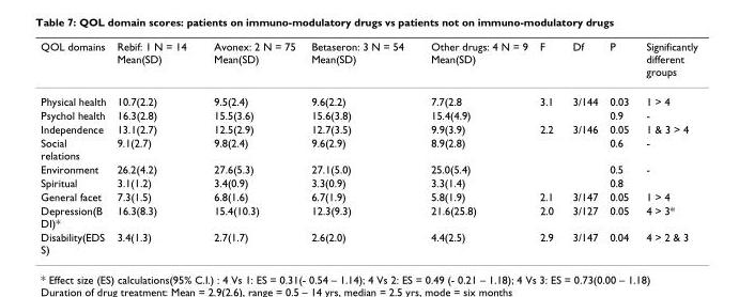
<table><thead><tr><td>QOL domains</td><td>Rebif: 1 N = 14 Mean(SD)</td><td>Avonex: 2 N = 75 Mean(SD)</td><td>Betaseron: 3 N = 54 Mean(SD)</td><td>Other drugs: 4 N = 9 Mean(SD)</td><td>F</td><td>Df</td><td>P</td><td>Significantly different groups</td></tr></thead><tbody><tr><td>Physical health</td><td>10.7(2.2)</td><td>9.5(2.4)</td><td>9.6(2.2)</td><td>7.7(2.8</td><td>3.1</td><td>3/144</td><td>0.03</td><td>1 &gt; 4</td></tr><tr><td>Psychol health</td><td>16.3(2.8)</td><td>15.5(3.6)</td><td>15.6(3.8)</td><td>15.4(4.9)</td><td></td><td></td><td>0.9</td><td>-</td></tr><tr><td>Independence</td><td>13.1(2.7)</td><td>12.5(2.9)</td><td>12.7(3.5)</td><td>9.9(3.9)</td><td>2.2</td><td>3/146</td><td>0.05</td><td>1 &amp; 3 &gt; 4</td></tr><tr><td>Social relations</td><td>9.1(2.7)</td><td>9.8(2.4)</td><td>9.6(2.9)</td><td>8.9(2.8)</td><td></td><td></td><td>0.6</td><td>-</td></tr><tr><td>Environment</td><td>26.2(4.2)</td><td>27.6(5.3)</td><td>27.1(5.0)</td><td>25.0(5.4)</td><td></td><td></td><td>0.5</td><td>-</td></tr><tr><td>Spiritual</td><td>3.1(1.2)</td><td>3.4(0.9)</td><td>3.3(0.9)</td><td>3.3(1.4)</td><td></td><td></td><td>0.8</td><td></td></tr><tr><td>General facet</td><td>7.3(1.5)</td><td>6.8(1.6)</td><td>6.7(1.9)</td><td>5.8(1.9)</td><td>2.1</td><td>3/147</td><td>0.05</td><td>1 &gt; 4</td></tr><tr><td>Depression(B DI)*</td><td>16.3(8.3)</td><td>15.4(10.3)</td><td>12.3(9.3)</td><td>21.6(25.8)</td><td>2.0</td><td>3/127</td><td>0.05</td><td>4 &gt; 3*</td></tr><tr><td>Disability(EDS S)</td><td>3.4(1.3)</td><td>2.7(1.7)</td><td>2.6(2.0)</td><td>4.4(2.5)</td><td>2.9</td><td>3/147</td><td>0.04</td><td>4 &gt; 2 &amp; 3</td></tr></tbody></table>